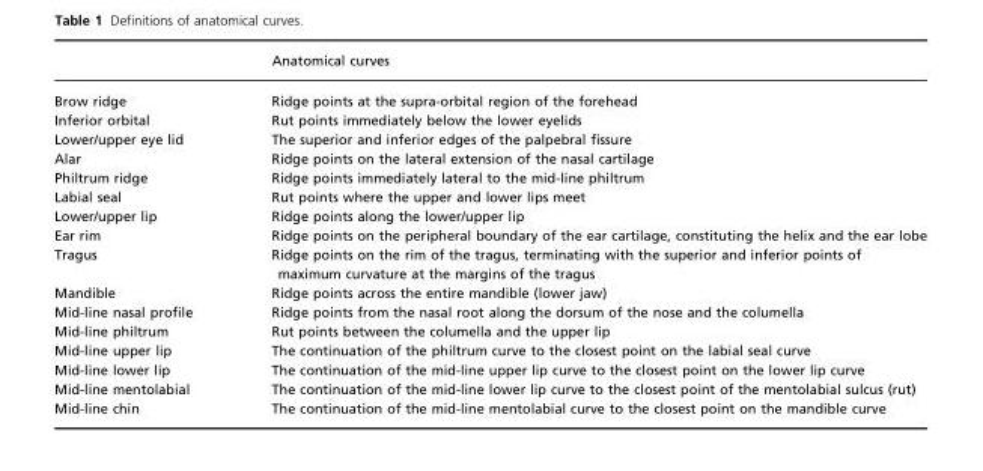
<table><thead><tr><td></td><td>Anatomical curves</td></tr></thead><tbody><tr><td>Brow ridge</td><td>Ridge points at the supra-orbital region of the forehead</td></tr><tr><td>Inferior orbital</td><td>Rut points immediately below the lower eyelids</td></tr><tr><td>Lower/upper eye lid</td><td>The superior and inferior edges of the palpebral fissure</td></tr><tr><td>Alar</td><td>Ridge points on the lateral extension of the nasal cartilage</td></tr><tr><td>Philtrum ridge</td><td>Ridge points immediately lateral to the mid-line philtrum</td></tr><tr><td>Labial seal</td><td>Rut points where the upper and lower lips meet</td></tr><tr><td>Lower/upper lip</td><td>Ridge points along the lower/upper lip</td></tr><tr><td>Ear rim</td><td>Ridge points on the peripheral boundary of the ear cartilage, constituting the helix and the ear lobe</td></tr><tr><td>Tragus</td><td>Ridge points on the rim of the tragus, terminating with the superior and inferior points of maximum curvature at the margins of the tragus</td></tr><tr><td>Mandible</td><td>Ridge points across the entire mandible (lower jaw)</td></tr><tr><td>Mid-line nasal profile</td><td>Ridge points from the nasal root along the dorsum of the nose and the columella</td></tr><tr><td>Mid-line philtrum</td><td>Rut points between the columella and the upper lip</td></tr><tr><td>Mid-line upper lip</td><td>The continuation of the philtrum curve to the closest point on the labial seal curve</td></tr><tr><td>Mid-line lower lip</td><td>The continuation of the mid-line upper lip curve to the closest point on the lower lip curve</td></tr><tr><td>Mid-line mentolabial</td><td>The continuation of the mid-line lower lip curve to the closest point of the mentolabial sulcus (rut)</td></tr><tr><td>Mid-line chin</td><td>The continuation of the mid-line mentolabial curve to the closest point on the mandible curve</td></tr></tbody></table>